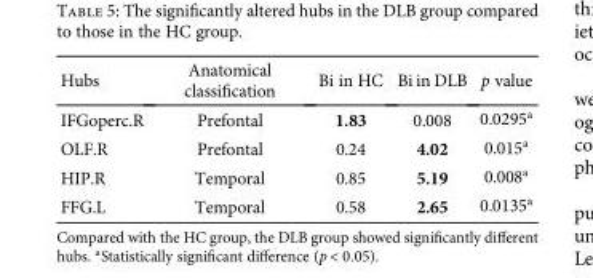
<table><thead><tr><td>Hubs</td><td>Anatomical classification</td><td>Bi in HC</td><td>Bi in DLB</td><td>p value</td></tr></thead><tbody><tr><td>IFGoperc.R</td><td>Prefontal</td><td>1.83</td><td>0.008</td><td>0.0295<sup>a</sup></td></tr><tr><td>OLF.R</td><td>Prefontal</td><td>0.24</td><td>4.02</td><td>0.015<sup>a</sup></td></tr><tr><td>HIP.R</td><td>Temporal</td><td>0.85</td><td>5.19</td><td>0.008<sup>a</sup></td></tr><tr><td>FFG.L</td><td>Temporal</td><td>0.58</td><td>2.65</td><td>0.0135<sup>a</sup></td></tr></tbody></table>